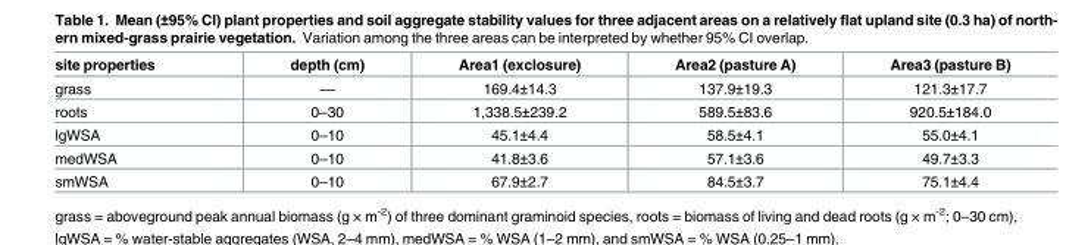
<table><thead><tr><td>site properties</td><td>depth (cm)</td><td>Area1 (exclosure)</td><td>Area2 (pasture A)</td><td>Area3 (pasture B)</td></tr></thead><tbody><tr><td>grass</td><td>—</td><td>169.4±14.3</td><td>137.9±19.3</td><td>121.3±17.7</td></tr><tr><td>roots</td><td>0–30</td><td>1,338.5±239.2</td><td>589.5±83.6</td><td>920.5±184.0</td></tr><tr><td>lgWSA</td><td>0–10</td><td>45.1±4.4</td><td>58.5±4.1</td><td>55.0±4.1</td></tr><tr><td>medWSA</td><td>0–10</td><td>41.8±3.6</td><td>57.1±3.6</td><td>49.7±3.3</td></tr><tr><td>smWSA</td><td>0–10</td><td>67.9±2.7</td><td>84.5±3.7</td><td>75.1±4.4</td></tr></tbody></table>